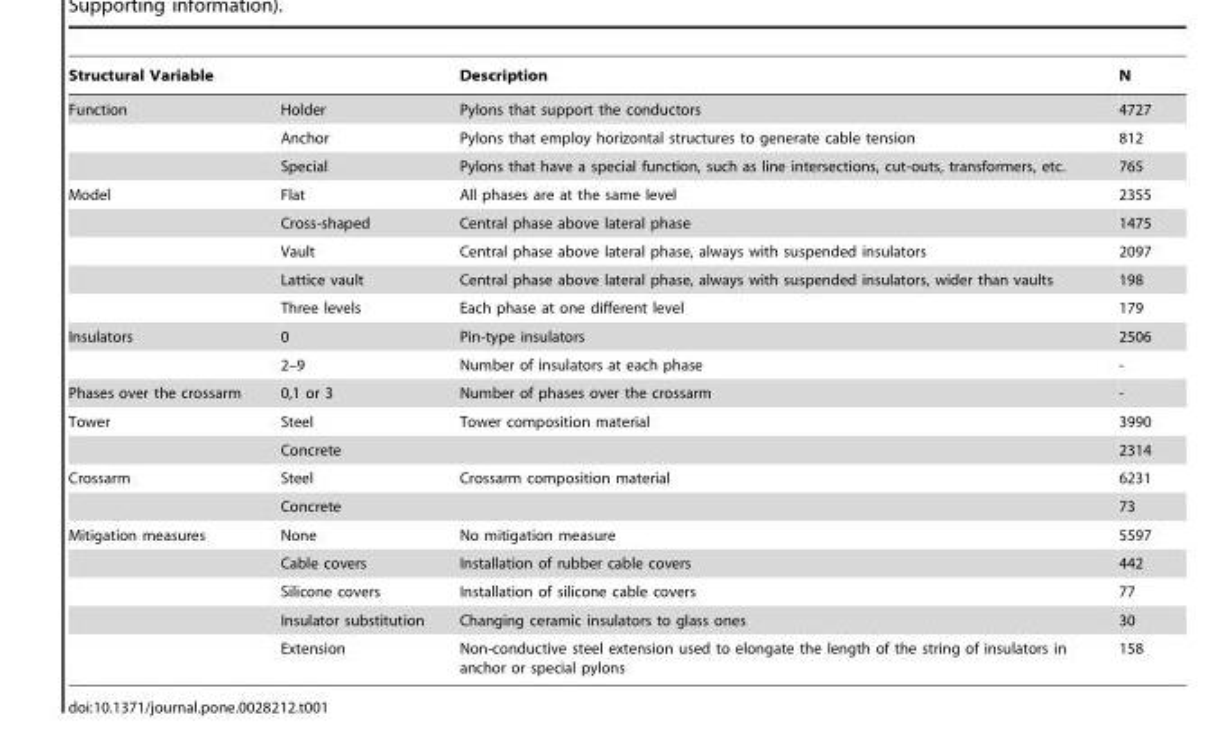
<table><thead><tr><td colspan="2">Structural Variable</td><td rowspan="2">Description Pylons that support the conductors</td><td rowspan="2">N 4727</td></tr><tr><td>Function</td><td>Holder</td></tr></thead><tbody><tr><td></td><td>Anchor</td><td>Pylons that employ horizontal structures to generate cable tension</td><td>812</td></tr><tr><td></td><td>Special</td><td>Pylons that have a special function, such as line intersections, cut-outs, transformers, etc.</td><td>765</td></tr><tr><td rowspan="5">Model</td><td>Flat</td><td>All phases are at the same level</td><td>2355</td></tr><tr><td>Cross-shaped</td><td>Central phase above lateral phase</td><td>1475</td></tr><tr><td>Vault</td><td>Central phase above lateral phase, always with suspended insulators</td><td>2097</td></tr><tr><td>Lattice vault</td><td>Central phase above lateral phase, always with suspended insulators, wider than vaults</td><td>198</td></tr><tr><td>Three levels</td><td>Each phase at one different level</td><td>179</td></tr><tr><td rowspan="2">Insulators</td><td>0</td><td>Pin-type insulators</td><td>2506</td></tr><tr><td>2–9</td><td>Number of insulators at each phase</td><td>-</td></tr><tr><td>Phases over the crossarm</td><td>0,1 or 3</td><td>Number of phases over the crossarm</td><td>-</td></tr><tr><td rowspan="2">Tower</td><td>Steel</td><td>Tower composition material</td><td>3990</td></tr><tr><td>Concrete</td><td></td><td>2314</td></tr><tr><td rowspan="2">Crossarm</td><td>Steel</td><td>Crossarm composition material</td><td>6231</td></tr><tr><td>Concrete</td><td></td><td>73</td></tr><tr><td rowspan="5">Mitigation measures</td><td>None</td><td>No mitigation measure</td><td>5597</td></tr><tr><td>Cable covers</td><td>Installation of rubber cable covers</td><td>442</td></tr><tr><td>Silicone covers</td><td>Installation of silicone cable covers</td><td>77</td></tr><tr><td>Insulator substitution</td><td>Changing ceramic insulators to glass ones</td><td>30</td></tr><tr><td>Extension</td><td>Non-conductive steel extension used to elongate the length of the string of insulators in anchor or special pylons</td><td>158</td></tr></tbody></table>